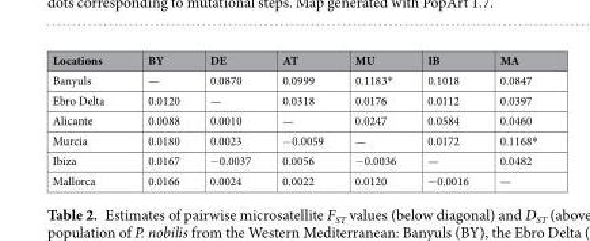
<table><thead><tr><td>Locations</td><td>BY</td><td>DE</td><td>AT</td><td>MU</td><td>IB</td><td>MA</td></tr></thead><tbody><tr><td>Banyuls</td><td>—</td><td>0.0870</td><td>0.0999</td><td>0.1183*</td><td>0.1018</td><td>0.0847</td></tr><tr><td>Ebro Delta</td><td>0.0120</td><td>—</td><td>0.0318</td><td>0.0176</td><td>0.0112</td><td>0.0397</td></tr><tr><td>Alicante</td><td>0.0088</td><td>0.0010</td><td>—</td><td>0.0247</td><td>0.0584</td><td>0.0460</td></tr><tr><td>Murcia</td><td>0.0180</td><td>0.0023</td><td>−0.0059</td><td>—</td><td>0.0172</td><td>0.1168*</td></tr><tr><td>Ibiza</td><td>0.0167</td><td>−0.0037</td><td>0.0056</td><td>−0.0036</td><td>—</td><td>0.0482</td></tr><tr><td>Mallorca</td><td>0.0166</td><td>0.0024</td><td>0.0022</td><td>0.0120</td><td>−0.0016</td><td>—</td></tr></tbody></table>